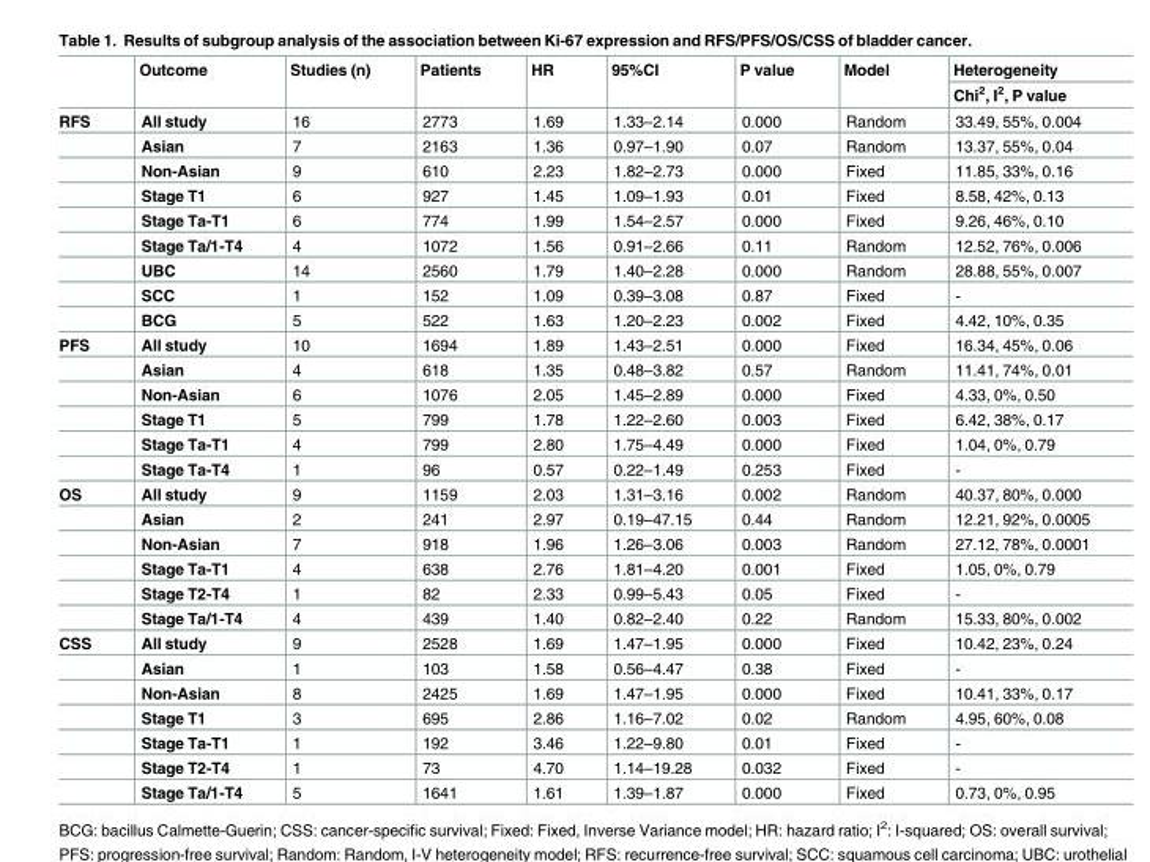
<table><thead><tr><td rowspan="2"></td><td rowspan="2">Outcome</td><td rowspan="2">Studies (n)</td><td rowspan="2">Patients</td><td rowspan="2">HR</td><td rowspan="2">95%CI</td><td rowspan="2">P value</td><td rowspan="2">Model</td><td rowspan="2">Heterogeneity Chi<sup>2</sup>, I<sup>2</sup>, P value</td></tr><tr></tr></thead><tbody><tr><td rowspan="9">RFS</td><td>All study</td><td>16</td><td>2773</td><td>1.69</td><td>1.33–2.14</td><td>0.000</td><td>Random</td><td>33.49, 55%, 0.004</td></tr><tr><td>Asian</td><td>7</td><td>2163</td><td>1.36</td><td>0.97–1.90</td><td>0.07</td><td>Random</td><td>13.37, 55%, 0.04</td></tr><tr><td>Non-Asian</td><td>9</td><td>610</td><td>2.23</td><td>1.82–2.73</td><td>0.000</td><td>Fixed</td><td>11.85, 33%, 0.16</td></tr><tr><td>Stage T1</td><td>6</td><td>927</td><td>1.45</td><td>1.09–1.93</td><td>0.01</td><td>Fixed</td><td>8.58, 42%, 0.13</td></tr><tr><td>Stage Ta-T1</td><td>6</td><td>774</td><td>1.99</td><td>1.54–2.57</td><td>0.000</td><td>Fixed</td><td>9.26, 46%, 0.10</td></tr><tr><td>Stage Ta/1-T4</td><td>4</td><td>1072</td><td>1.56</td><td>0.91–2.66</td><td>0.11</td><td>Random</td><td>12.52, 76%, 0.006</td></tr><tr><td>UBC</td><td>14</td><td>2560</td><td>1.79</td><td>1.40–2.28</td><td>0.000</td><td>Random</td><td>28.88, 55%, 0.007</td></tr><tr><td>SCC</td><td>1</td><td>152</td><td>1.09</td><td>0.39–3.08</td><td>0.87</td><td>Fixed</td><td>-</td></tr><tr><td>BCG</td><td>5</td><td>522</td><td>1.63</td><td>1.20–2.23</td><td>0.002</td><td>Fixed</td><td>4.42, 10%, 0.35</td></tr><tr><td rowspan="6">PFS</td><td>All study</td><td>10</td><td>1694</td><td>1.89</td><td>1.43–2.51</td><td>0.000</td><td>Fixed</td><td>16.34, 45%, 0.06</td></tr><tr><td>Asian</td><td>4</td><td>618</td><td>1.35</td><td>0.48–3.82</td><td>0.57</td><td>Random</td><td>11.41, 74%, 0.01</td></tr><tr><td>Non-Asian</td><td>6</td><td>1076</td><td>2.05</td><td>1.45–2.89</td><td>0.000</td><td>Fixed</td><td>4.33, 0%, 0.50</td></tr><tr><td>Stage T1</td><td>5</td><td>799</td><td>1.78</td><td>1.22–2.60</td><td>0.003</td><td>Fixed</td><td>6.42, 38%, 0.17</td></tr><tr><td>Stage Ta-T1</td><td>4</td><td>799</td><td>2.80</td><td>1.75–4.49</td><td>0.000</td><td>Fixed</td><td>1.04, 0%, 0.79</td></tr><tr><td>Stage Ta-T4</td><td>1</td><td>96</td><td>0.57</td><td>0.22–1.49</td><td>0.253</td><td>Fixed</td><td>-</td></tr><tr><td rowspan="6">OS</td><td>All study</td><td>9</td><td>1159</td><td>2.03</td><td>1.31–3.16</td><td>0.002</td><td>Random</td><td>40.37, 80%, 0.000</td></tr><tr><td>Asian</td><td>2</td><td>241</td><td>2.97</td><td>0.19–47.15</td><td>0.44</td><td>Random</td><td>12.21, 92%, 0.0005</td></tr><tr><td>Non-Asian</td><td>7</td><td>918</td><td>1.96</td><td>1.26–3.06</td><td>0.003</td><td>Random</td><td>27.12, 78%, 0.0001</td></tr><tr><td>Stage Ta-T1</td><td>4</td><td>638</td><td>2.76</td><td>1.81–4.20</td><td>0.001</td><td>Fixed</td><td>1.05, 0%, 0.79</td></tr><tr><td>Stage T2-T4</td><td>1</td><td>82</td><td>2.33</td><td>0.99–5.43</td><td>0.05</td><td>Fixed</td><td>-</td></tr><tr><td>Stage Ta/1-T4</td><td>4</td><td>439</td><td>1.40</td><td>0.82–2.40</td><td>0.22</td><td>Random</td><td>15.33, 80%, 0.002</td></tr><tr><td rowspan="7">CSS</td><td>All study</td><td>9</td><td>2528</td><td>1.69</td><td>1.47–1.95</td><td>0.000</td><td>Fixed</td><td>10.42, 23%, 0.24</td></tr><tr><td>Asian</td><td>1</td><td>103</td><td>1.58</td><td>0.56–4.47</td><td>0.38</td><td>Fixed</td><td>-</td></tr><tr><td>Non-Asian</td><td>8</td><td>2425</td><td>1.69</td><td>1.47–1.95</td><td>0.000</td><td>Fixed</td><td>10.41, 33%, 0.17</td></tr><tr><td>Stage T1</td><td>3</td><td>695</td><td>2.86</td><td>1.16–7.02</td><td>0.02</td><td>Random</td><td>4.95, 60%, 0.08</td></tr><tr><td>Stage Ta-T1</td><td>1</td><td>192</td><td>3.46</td><td>1.22–9.80</td><td>0.01</td><td>Fixed</td><td>-</td></tr><tr><td>Stage T2-T4</td><td>1</td><td>73</td><td>4.70</td><td>1.14–19.28</td><td>0.032</td><td>Fixed</td><td>-</td></tr><tr><td>Stage Ta/1-T4</td><td>5</td><td>1641</td><td>1.61</td><td>1.39–1.87</td><td>0.000</td><td>Fixed</td><td>0.73, 0%, 0.95</td></tr></tbody></table>